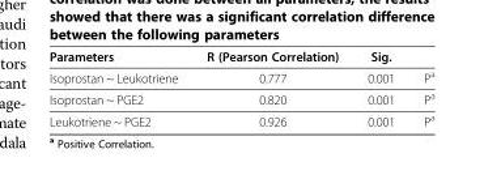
<table><thead><tr><td>Parameters</td><td>R (Pearson Correlation)</td><td>Sig.</td><td></td></tr></thead><tbody><tr><td>Isoprostan ~ Leukotriene</td><td>0.777</td><td>0.001</td><td>P<sup>a</sup></td></tr><tr><td>Isoprostan ~ PGE2</td><td>0.820</td><td>0.001</td><td>P<sup>a</sup></td></tr><tr><td>Leukotriene ~ PGE2</td><td>0.926</td><td>0.001</td><td>P<sup>a</sup></td></tr></tbody></table>